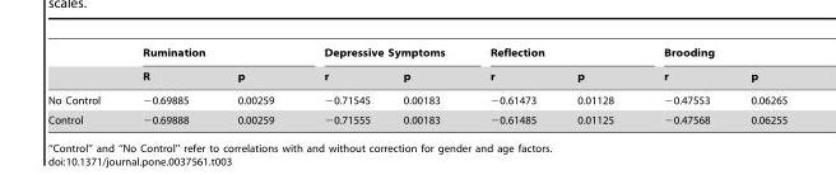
<table><thead><tr><td rowspan="2"></td><td colspan="2">Rumination</td><td colspan="2">Depressive Symptoms</td><td colspan="2">Reflection</td><td colspan="2">Brooding</td></tr><tr><td>R</td><td>p</td><td>r</td><td>p</td><td>r</td><td>p</td><td>r</td><td>p</td></tr></thead><tbody><tr><td>No Control</td><td>−0.69885</td><td>0.00259</td><td>−0.71545</td><td>0.00183</td><td>−0.61473</td><td>0.01128</td><td>−0.47553</td><td>0.06265</td></tr><tr><td>Control</td><td>−0.69888</td><td>0.00259</td><td>−0.71555</td><td>0.00183</td><td>−0.61485</td><td>0.01125</td><td>−0.47568</td><td>0.06255</td></tr></tbody></table>